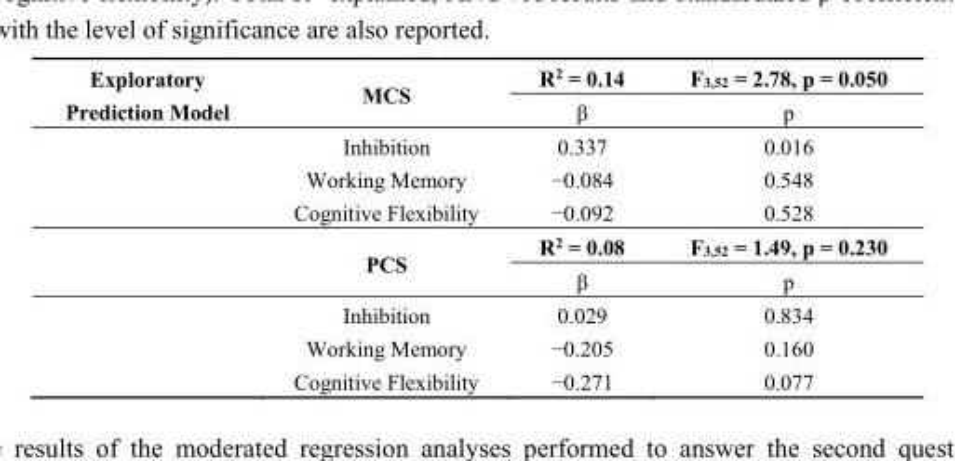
<table><tbody><tr><td rowspan="10">Exploratory Prediction Model</td><td rowspan="2">MCS</td><td>R<sup>2</sup> = 0.14</td><td>F<sub>3,52</sub> = 2.78, p = 0.050</td></tr><tr><td>β</td><td>p</td></tr><tr><td>Inhibition</td><td>0.337</td><td>0.016</td></tr><tr><td>Working Memory</td><td>−0.084</td><td>0.548</td></tr><tr><td>Cognitive Flexibility</td><td>−0.092</td><td>0.528</td></tr><tr><td rowspan="2">PCS</td><td>R<sup>2</sup> = 0.08</td><td>F<sub>3,52</sub> = 1.49, p = 0.230</td></tr><tr><td>β</td><td>p</td></tr><tr><td>Inhibition</td><td>0.029</td><td>0.834</td></tr><tr><td>Working Memory</td><td>−0.205</td><td>0.160</td></tr><tr><td>Cognitive Flexibility</td><td>−0.271</td><td>0.077</td></tr></tbody></table>